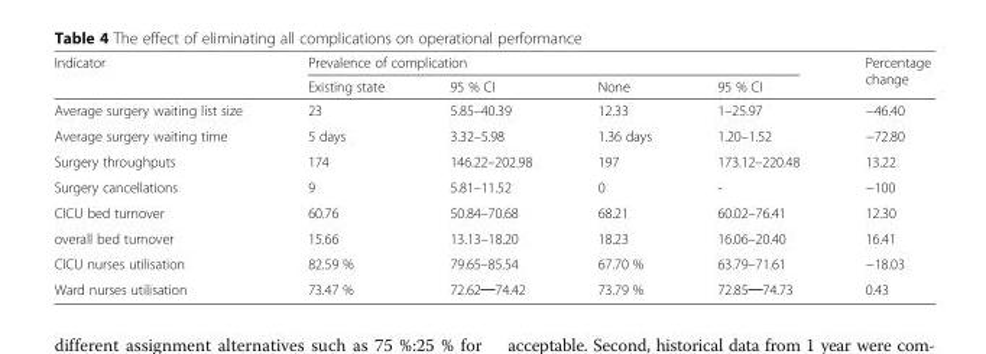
<table><thead><tr><td rowspan="2">Indicator</td><td colspan="4">Prevalence of complication</td><td rowspan="2">Percentage change</td></tr><tr><td>Existing state</td><td>95 % CI</td><td>None</td><td>95 % CI</td></tr></thead><tbody><tr><td>Average surgery waiting list size</td><td>23</td><td>5.85–40.39</td><td>12.33</td><td>1–25.97</td><td>−46.40</td></tr><tr><td>Average surgery waiting time</td><td>5 days</td><td>3.32–5.98</td><td>1.36 days</td><td>1.20–1.52</td><td>−72.80</td></tr><tr><td>Surgery throughputs</td><td>174</td><td>146.22–202.98</td><td>197</td><td>173.12–220.48</td><td>13.22</td></tr><tr><td>Surgery cancellations</td><td>9</td><td>5.81–11.52</td><td>0</td><td>-</td><td>−100</td></tr><tr><td>CICU bed turnover</td><td>60.76</td><td>50.84–70.68</td><td>68.21</td><td>60.02–76.41</td><td>12.30</td></tr><tr><td>overall bed turnover</td><td>15.66</td><td>13.13–18.20</td><td>18.23</td><td>16.06–20.40</td><td>16.41</td></tr><tr><td>CICU nurses utilisation</td><td>82.59 %</td><td>79.65–85.54</td><td>67.70 %</td><td>63.79–71.61</td><td>−18.03</td></tr><tr><td>Ward nurses utilisation</td><td>73.47 %</td><td>72.62─74.42</td><td>73.79 %</td><td>72.85─74.73</td><td>0.43</td></tr></tbody></table>